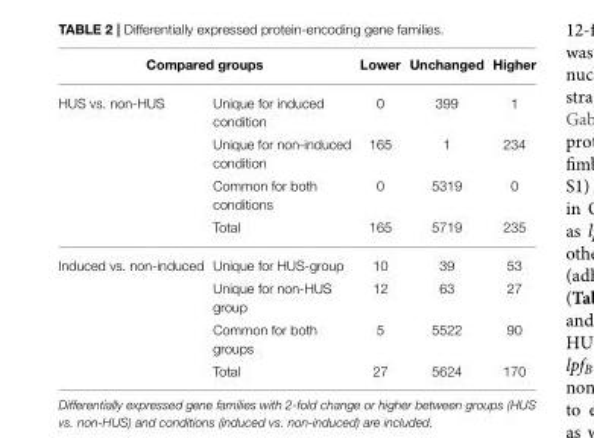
<table><thead><tr><td colspan="2">Compared groups</td><td rowspan="2">Lower 0</td><td rowspan="2">Unchanged 399</td><td rowspan="2">Higher 1</td></tr><tr><td>HUS vs. non-HUS</td><td>Unique for induced condition</td></tr></thead><tbody><tr><td></td><td>Unique for non-induced condition</td><td>165</td><td>1</td><td>234</td></tr><tr><td></td><td>Common for both conditions</td><td>0</td><td>5319</td><td>0</td></tr><tr><td></td><td>Total</td><td>165</td><td>5719</td><td>235</td></tr><tr><td rowspan="4">Induced vs. non-induced</td><td>Unique for HUS-group</td><td>10</td><td>39</td><td>53</td></tr><tr><td>Unique for non-HUS group</td><td>12</td><td>63</td><td>27</td></tr><tr><td>Common for both groups</td><td>5</td><td>5522</td><td>90</td></tr><tr><td>Total</td><td>27</td><td>5624</td><td>170</td></tr></tbody></table>